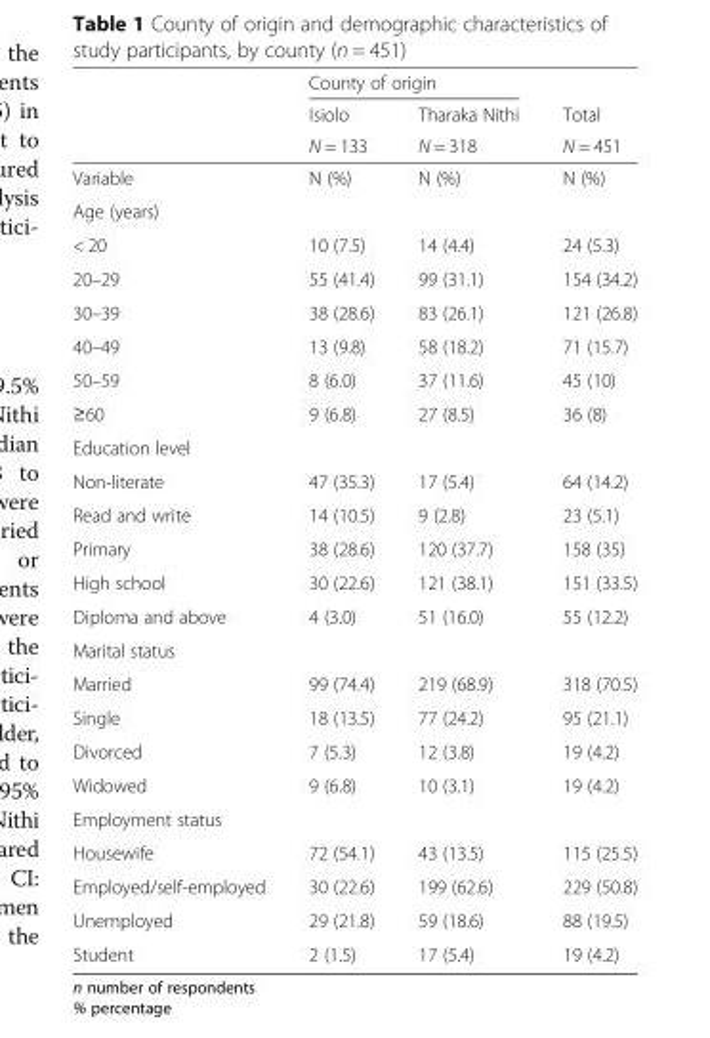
<table><thead><tr><td rowspan="3"></td><td colspan="2">County of origin</td><td rowspan="3">Total N = 451</td></tr><tr><td rowspan="2">Isiolo N = 133</td><td rowspan="2">Tharaka Nithi N = 318</td></tr><tr></tr></thead><tbody><tr><td>Variable</td><td>N (%)</td><td>N (%)</td><td>N (%)</td></tr><tr><td colspan="4">Age (years)</td></tr><tr><td>&lt; 20</td><td>10 (7.5)</td><td>14 (4.4)</td><td>24 (5.3)</td></tr><tr><td>20–29</td><td>55 (41.4)</td><td>99 (31.1)</td><td>154 (34.2)</td></tr><tr><td>30–39</td><td>38 (28.6)</td><td>83 (26.1)</td><td>121 (26.8)</td></tr><tr><td>40–49</td><td>13 (9.8)</td><td>58 (18.2)</td><td>71 (15.7)</td></tr><tr><td>50–59</td><td>8 (6.0)</td><td>37 (11.6)</td><td>45 (10)</td></tr><tr><td>≥60</td><td>9 (6.8)</td><td>27 (8.5)</td><td>36 (8)</td></tr><tr><td colspan="4">Education level</td></tr><tr><td>Non-literate</td><td>47 (35.3)</td><td>17 (5.4)</td><td>64 (14.2)</td></tr><tr><td>Read and write</td><td>14 (10.5)</td><td>9 (2.8)</td><td>23 (5.1)</td></tr><tr><td>Primary</td><td>38 (28.6)</td><td>120 (37.7)</td><td>158 (35)</td></tr><tr><td>High school</td><td>30 (22.6)</td><td>121 (38.1)</td><td>151 (33.5)</td></tr><tr><td>Diploma and above</td><td>4 (3.0)</td><td>51 (16.0)</td><td>55 (12.2)</td></tr><tr><td colspan="4">Marital status</td></tr><tr><td>Married</td><td>99 (74.4)</td><td>219 (68.9)</td><td>318 (70.5)</td></tr><tr><td>Single</td><td>18 (13.5)</td><td>77 (24.2)</td><td>95 (21.1)</td></tr><tr><td>Divorced</td><td>7 (5.3)</td><td>12 (3.8)</td><td>19 (4.2)</td></tr><tr><td>Widowed</td><td>9 (6.8)</td><td>10 (3.1)</td><td>19 (4.2)</td></tr><tr><td colspan="4">Employment status</td></tr><tr><td>Housewife</td><td>72 (54.1)</td><td>43 (13.5)</td><td>115 (25.5)</td></tr><tr><td>Employed/self-employed</td><td>30 (22.6)</td><td>199 (62.6)</td><td>229 (50.8)</td></tr><tr><td>Unemployed</td><td>29 (21.8)</td><td>59 (18.6)</td><td>88 (19.5)</td></tr><tr><td>Student</td><td>2 (1.5)</td><td>17 (5.4)</td><td>19 (4.2)</td></tr></tbody></table>